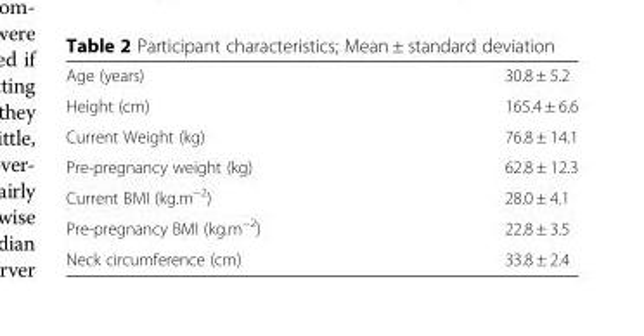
<table><tbody><tr><td>Age (years)</td><td>30.8 ± 5.2</td></tr><tr><td>Height (cm)</td><td>165.4 ± 6.6</td></tr><tr><td>Current Weight (kg)</td><td>76.8 ± 14.1</td></tr><tr><td>Pre-pregnancy weight (kg)</td><td>62.8 ± 12.3</td></tr><tr><td>Current BMI (kg.m<sup>−2</sup>)</td><td>28.0 ± 4.1</td></tr><tr><td>Pre-pregnancy BMI (kg.m<sup>−2</sup>)</td><td>22.8 ± 3.5</td></tr><tr><td>Neck circumference (cm)</td><td>33.8 ± 2.4</td></tr></tbody></table>